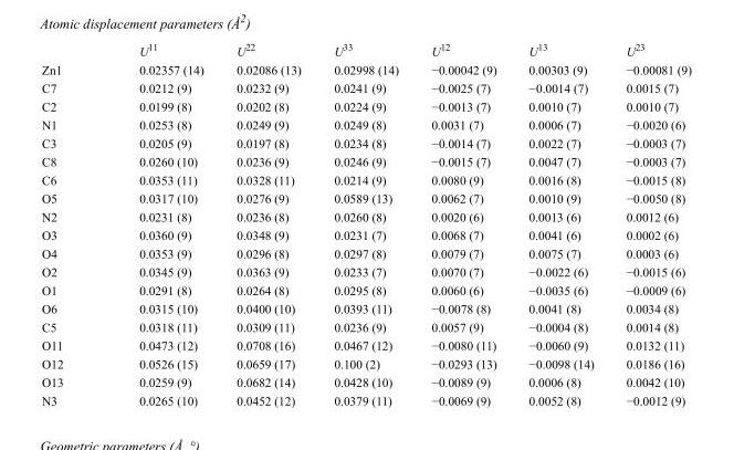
<table><thead><tr><td></td><td>U<sup>11</sup></td><td>U<sup>22</sup></td><td>U<sup>33</sup></td><td>U<sup>12</sup></td><td>U<sup>13</sup></td><td>U<sup>23</sup></td></tr></thead><tbody><tr><td>Zn1</td><td>0.02357 (14)</td><td>0.02086 (13)</td><td>0.02998 (14)</td><td>−0.00042 (9)</td><td>0.00303 (9)</td><td>−0.00081 (9)</td></tr><tr><td>C7</td><td>0.0212 (9)</td><td>0.0232 (9)</td><td>0.0241 (9)</td><td>−0.0025 (7)</td><td>−0.0014 (7)</td><td>0.0015 (7)</td></tr><tr><td>C2</td><td>0.0199 (8)</td><td>0.0202 (8)</td><td>0.0224 (9)</td><td>−0.0013 (7)</td><td>0.0010 (7)</td><td>0.0010 (7)</td></tr><tr><td>N1</td><td>0.0253 (8)</td><td>0.0249 (9)</td><td>0.0249 (8)</td><td>0.0031 (7)</td><td>0.0006 (7)</td><td>−0.0020 (6)</td></tr><tr><td>C3</td><td>0.0205 (9)</td><td>0.0197 (8)</td><td>0.0234 (8)</td><td>−0.0014 (7)</td><td>0.0022 (7)</td><td>−0.0003 (7)</td></tr><tr><td>C8</td><td>0.0260 (10)</td><td>0.0236 (9)</td><td>0.0246 (9)</td><td>−0.0015 (7)</td><td>0.0047 (7)</td><td>−0.0003 (7)</td></tr><tr><td>C6</td><td>0.0353 (11)</td><td>0.0328 (11)</td><td>0.0214 (9)</td><td>0.0080 (9)</td><td>0.0016 (8)</td><td>−0.0015 (8)</td></tr><tr><td>O5</td><td>0.0317 (10)</td><td>0.0276 (9)</td><td>0.0589 (13)</td><td>0.0062 (7)</td><td>0.0010 (9)</td><td>−0.0050 (8)</td></tr><tr><td>N2</td><td>0.0231 (8)</td><td>0.0236 (8)</td><td>0.0260 (8)</td><td>0.0020 (6)</td><td>0.0013 (6)</td><td>0.0012 (6)</td></tr><tr><td>O3</td><td>0.0360 (9)</td><td>0.0348 (9)</td><td>0.0231 (7)</td><td>0.0068 (7)</td><td>0.0041 (6)</td><td>0.0002 (6)</td></tr><tr><td>O4</td><td>0.0353 (9)</td><td>0.0296 (8)</td><td>0.0297 (8)</td><td>0.0079 (7)</td><td>0.0075 (7)</td><td>0.0003 (6)</td></tr><tr><td>O2</td><td>0.0345 (9)</td><td>0.0363 (9)</td><td>0.0233 (7)</td><td>0.0070 (7)</td><td>−0.0022 (6)</td><td>−0.0015 (6)</td></tr><tr><td>O1</td><td>0.0291 (8)</td><td>0.0264 (8)</td><td>0.0295 (8)</td><td>0.0060 (6)</td><td>−0.0035 (6)</td><td>−0.0009 (6)</td></tr><tr><td>O6</td><td>0.0315 (10)</td><td>0.0400 (10)</td><td>0.0393 (11)</td><td>−0.0078 (8)</td><td>0.0041 (8)</td><td>0.0034 (8)</td></tr><tr><td>C5</td><td>0.0318 (11)</td><td>0.0309 (11)</td><td>0.0236 (9)</td><td>0.0057 (9)</td><td>−0.0004 (8)</td><td>0.0014 (8)</td></tr><tr><td>O11</td><td>0.0473 (12)</td><td>0.0708 (16)</td><td>0.0467 (12)</td><td>−0.0080 (11)</td><td>−0.0060 (9)</td><td>0.0132 (11)</td></tr><tr><td>O12</td><td>0.0526 (15)</td><td>0.0659 (17)</td><td>0.100 (2)</td><td>−0.0293 (13)</td><td>−0.0098 (14)</td><td>0.0186 (16)</td></tr><tr><td>O13</td><td>0.0259 (9)</td><td>0.0682 (14)</td><td>0.0428 (10)</td><td>−0.0089 (9)</td><td>0.0006 (8)</td><td>0.0042 (10)</td></tr><tr><td>N3</td><td>0.0265 (10)</td><td>0.0452 (12)</td><td>0.0379 (11)</td><td>−0.0069 (9)</td><td>0.0052 (8)</td><td>−0.0012 (9)</td></tr></tbody></table>